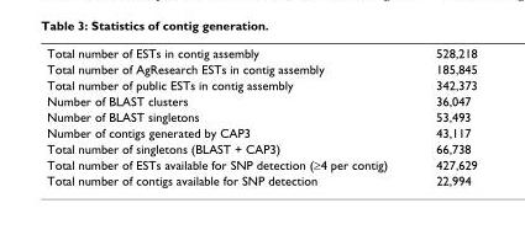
<table><tbody><tr><td>Total number of ESTs in contig assembly</td><td>528,218</td></tr><tr><td>Total number of AgResearch ESTs in contig assembly</td><td>185,845</td></tr><tr><td>Total number of public ESTs in contig assembly</td><td>342,373</td></tr><tr><td>Number of BLAST clusters</td><td>36,047</td></tr><tr><td>Number of BLAST singletons</td><td>53,493</td></tr><tr><td>Number of contigs generated by CAP3</td><td>43,117</td></tr><tr><td>Total number of singletons (BLAST + CAP3)</td><td>66,738</td></tr><tr><td>Total number of ESTs available for SNP detection (≥4 per contig)</td><td>427,629</td></tr><tr><td>Total number of contigs available for SNP detection</td><td>22,994</td></tr></tbody></table>